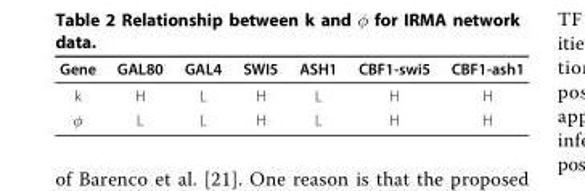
<table><thead><tr><td>Gene</td><td>GAL80</td><td>GAL4</td><td>SWI5</td><td>ASH1</td><td>CBF1-swi5</td><td>CBF1-ash1</td></tr></thead><tbody><tr><td>k</td><td>H</td><td>L</td><td>H</td><td>L</td><td>H</td><td>H</td></tr><tr><td>φ</td><td>L</td><td>L</td><td>H</td><td>L</td><td>H</td><td>H</td></tr></tbody></table>